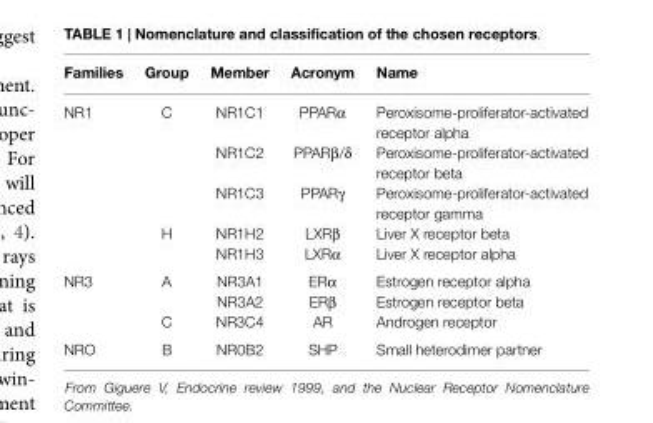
<table><thead><tr><td>Families</td><td>Group</td><td>Member</td><td>Acronym</td><td>Name</td></tr></thead><tbody><tr><td rowspan="5">NR1</td><td>C</td><td>NR1C1</td><td>PPARα</td><td>Peroxisome-proliferator-activated receptor alpha</td></tr><tr><td></td><td>NR1C2</td><td>PPARβ/δ</td><td>Peroxisome-proliferator-activated receptor beta</td></tr><tr><td></td><td>NR1C3</td><td>PPARγ</td><td>Peroxisome-proliferator-activated receptor gamma</td></tr><tr><td>H</td><td>NR1H2</td><td>LXRβ</td><td>Liver X receptor beta</td></tr><tr><td></td><td>NR1H3</td><td>LXRα</td><td>Liver X receptor alpha</td></tr><tr><td rowspan="3">NR3</td><td>A</td><td>NR3A1</td><td>ERα</td><td>Estrogen receptor alpha</td></tr><tr><td></td><td>NR3A2</td><td>ERβ</td><td>Estrogen receptor beta</td></tr><tr><td>C</td><td>NR3C4</td><td>AR</td><td>Androgen receptor</td></tr><tr><td>NRO</td><td>B</td><td>NR0B2</td><td>SHP</td><td>Small heterodimer partner</td></tr></tbody></table>